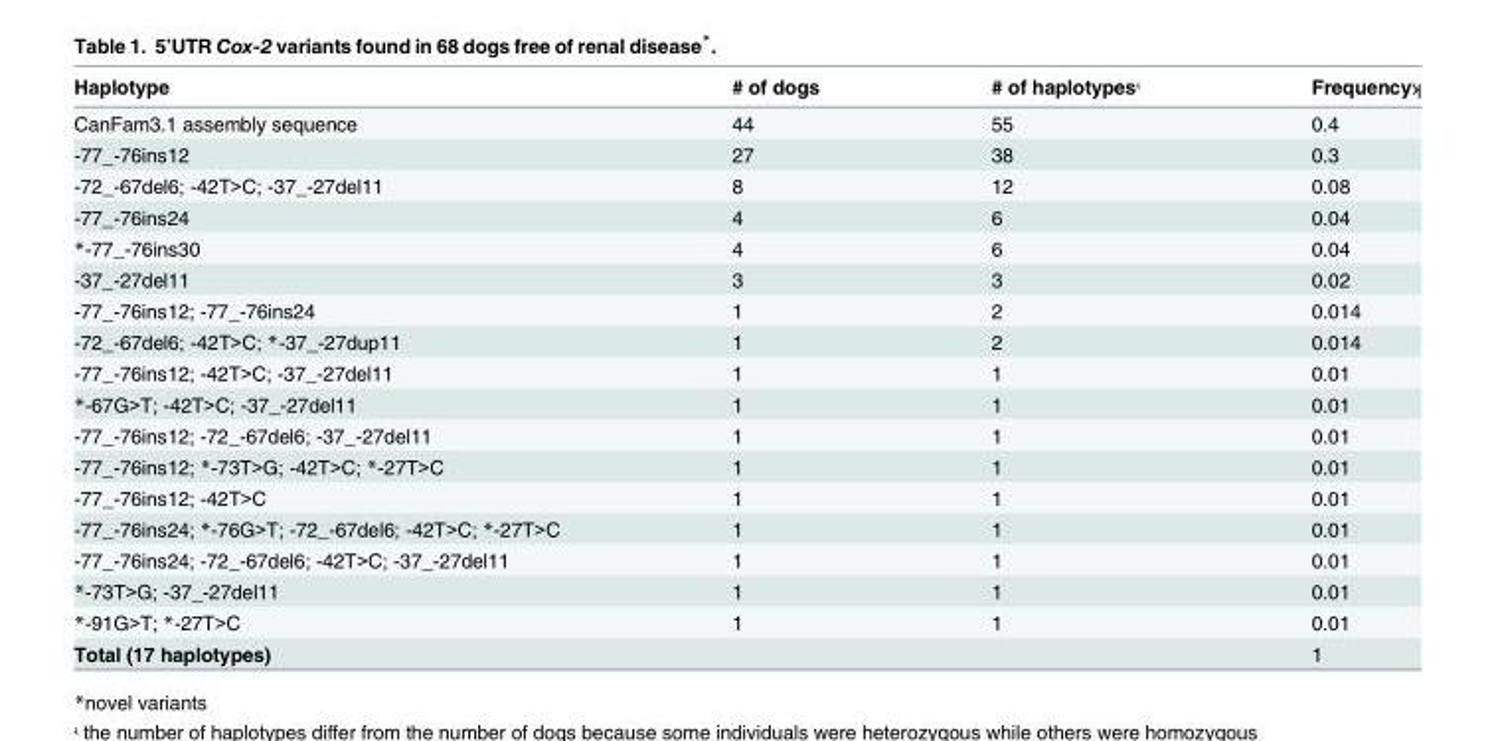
<table><thead><tr><td>Haplotype</td><td># of dogs</td><td># of haplotypesʵ</td><td>Frequencyʞ</td></tr></thead><tbody><tr><td>CanFam3.1 assembly sequence</td><td>44</td><td>55</td><td>0.4</td></tr><tr><td>-77_-76ins12</td><td>27</td><td>38</td><td>0.3</td></tr><tr><td>-72_-67del6; -42T&gt;C; -37_-27del11</td><td>8</td><td>12</td><td>0.08</td></tr><tr><td>-77_-76ins24</td><td>4</td><td>6</td><td>0.04</td></tr><tr><td>*-77_-76ins30</td><td>4</td><td>6</td><td>0.04</td></tr><tr><td>-37_-27del11</td><td>3</td><td>3</td><td>0.02</td></tr><tr><td>-77_-76ins12; -77_-76ins24</td><td>1</td><td>2</td><td>0.014</td></tr><tr><td>-72_-67del6; -42T&gt;C; *-37_-27dup11</td><td>1</td><td>2</td><td>0.014</td></tr><tr><td>-77_-76ins12; -42T&gt;C; -37_-27del11</td><td>1</td><td>1</td><td>0.01</td></tr><tr><td>*-67G&gt;T; -42T&gt;C; -37_-27del11</td><td>1</td><td>1</td><td>0.01</td></tr><tr><td>-77_-76ins12; -72_-67del6; -37_-27del11</td><td>1</td><td>1</td><td>0.01</td></tr><tr><td>-77_-76ins12; *-73T&gt;G; -42T&gt;C; *-27T&gt;C</td><td>1</td><td>1</td><td>0.01</td></tr><tr><td>-77_-76ins12; -42T&gt;C</td><td>1</td><td>1</td><td>0.01</td></tr><tr><td>-77_-76ins24; *-76G&gt;T; -72_-67del6; -42T&gt;C; *-27T&gt;C</td><td>1</td><td>1</td><td>0.01</td></tr><tr><td>-77_-76ins24; -72_-67del6; -42T&gt;C; -37_-27del11</td><td>1</td><td>1</td><td>0.01</td></tr><tr><td>*-73T&gt;G; -37_-27del11</td><td>1</td><td>1</td><td>0.01</td></tr><tr><td>*-91G&gt;T; *-27T&gt;C</td><td>1</td><td>1</td><td>0.01</td></tr><tr><td colspan="3">Total (17 haplotypes)</td><td>1</td></tr></tbody></table>